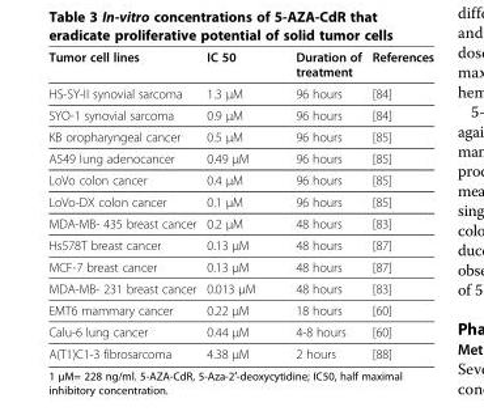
<table><thead><tr><td>Tumor cell lines</td><td>IC 50</td><td>Duration of treatment</td><td>References</td></tr></thead><tbody><tr><td>HS-SY-II synovial sarcoma</td><td>1.3 μM</td><td>96 hours</td><td>[84]</td></tr><tr><td>SYO-1 synovial sarcoma</td><td>0.9 μM</td><td>96 hours</td><td>[84]</td></tr><tr><td>KB oropharyngeal cancer</td><td>0.5 μM</td><td>96 hours</td><td>[85]</td></tr><tr><td>A549 lung adenocancer</td><td>0.49 μM</td><td>96 hours</td><td>[85]</td></tr><tr><td>LoVo colon cancer</td><td>0.4 μM</td><td>96 hours</td><td>[85]</td></tr><tr><td>LoVo-DX colon cancer</td><td>0.1 μM</td><td>96 hours</td><td>[85]</td></tr><tr><td>MDA-MB- 435 breast cancer</td><td>0.2 μM</td><td>48 hours</td><td>[83]</td></tr><tr><td>Hs578T breast cancer</td><td>0.13 μM</td><td>48 hours</td><td>[87]</td></tr><tr><td>MCF-7 breast cancer</td><td>0.13 μM</td><td>48 hours</td><td>[87]</td></tr><tr><td>MDA-MB- 231 breast cancer</td><td>0.013 μM</td><td>48 hours</td><td>[83]</td></tr><tr><td>EMT6 mammary cancer</td><td>0.22 μM</td><td>18 hours</td><td>[60]</td></tr><tr><td>Calu-6 lung cancer</td><td>0.44 μM</td><td>4-8 hours</td><td>[60]</td></tr><tr><td>A(T1)C1-3 fibrosarcoma</td><td>4.38 μM</td><td>2 hours</td><td>[88]</td></tr></tbody></table>